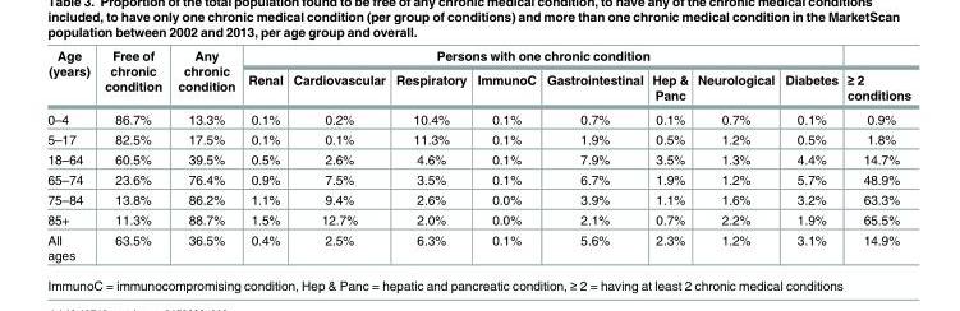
<table><thead><tr><td rowspan="2">Age (years)</td><td rowspan="2">Free of chronic condition</td><td rowspan="2">Any chronic condition</td><td colspan="8">Persons with one chronic condition</td><td rowspan="2">≥ 2 conditions</td></tr><tr><td>Renal</td><td>Cardiovascular</td><td>Respiratory</td><td>ImmunoC</td><td>Gastrointestinal</td><td>Hep &amp; Panc</td><td>Neurological</td><td>Diabetes</td></tr></thead><tbody><tr><td>0–4</td><td>86.7%</td><td>13.3%</td><td>0.1%</td><td>0.2%</td><td>10.4%</td><td>0.1%</td><td>0.7%</td><td>0.1%</td><td>0.7%</td><td>0.1%</td><td>0.9%</td></tr><tr><td>5–17</td><td>82.5%</td><td>17.5%</td><td>0.1%</td><td>0.1%</td><td>11.3%</td><td>0.1%</td><td>1.9%</td><td>0.5%</td><td>1.2%</td><td>0.5%</td><td>1.8%</td></tr><tr><td>18–64</td><td>60.5%</td><td>39.5%</td><td>0.5%</td><td>2.6%</td><td>4.6%</td><td>0.1%</td><td>7.9%</td><td>3.5%</td><td>1.3%</td><td>4.4%</td><td>14.7%</td></tr><tr><td>65–74</td><td>23.6%</td><td>76.4%</td><td>0.9%</td><td>7.5%</td><td>3.5%</td><td>0.1%</td><td>6.7%</td><td>1.9%</td><td>1.2%</td><td>5.7%</td><td>48.9%</td></tr><tr><td>75–84</td><td>13.8%</td><td>86.2%</td><td>1.1%</td><td>9.4%</td><td>2.6%</td><td>0.0%</td><td>3.9%</td><td>1.1%</td><td>1.6%</td><td>3.2%</td><td>63.3%</td></tr><tr><td>85+</td><td>11.3%</td><td>88.7%</td><td>1.5%</td><td>12.7%</td><td>2.0%</td><td>0.0%</td><td>2.1%</td><td>0.7%</td><td>2.2%</td><td>1.9%</td><td>65.5%</td></tr><tr><td>All ages</td><td>63.5%</td><td>36.5%</td><td>0.4%</td><td>2.5%</td><td>6.3%</td><td>0.1%</td><td>5.6%</td><td>2.3%</td><td>1.2%</td><td>3.1%</td><td>14.9%</td></tr></tbody></table>